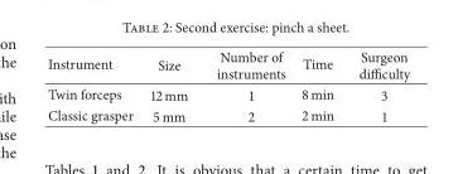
<table><thead><tr><td>Instrument</td><td>Size</td><td>Number of instruments</td><td>Time</td><td>Surgeon difficulty</td></tr></thead><tbody><tr><td>Twin forceps</td><td>12 mm</td><td>1</td><td>8 min</td><td>3</td></tr><tr><td>Classic grasper</td><td>5 mm</td><td>2</td><td>2 min</td><td>1</td></tr></tbody></table>